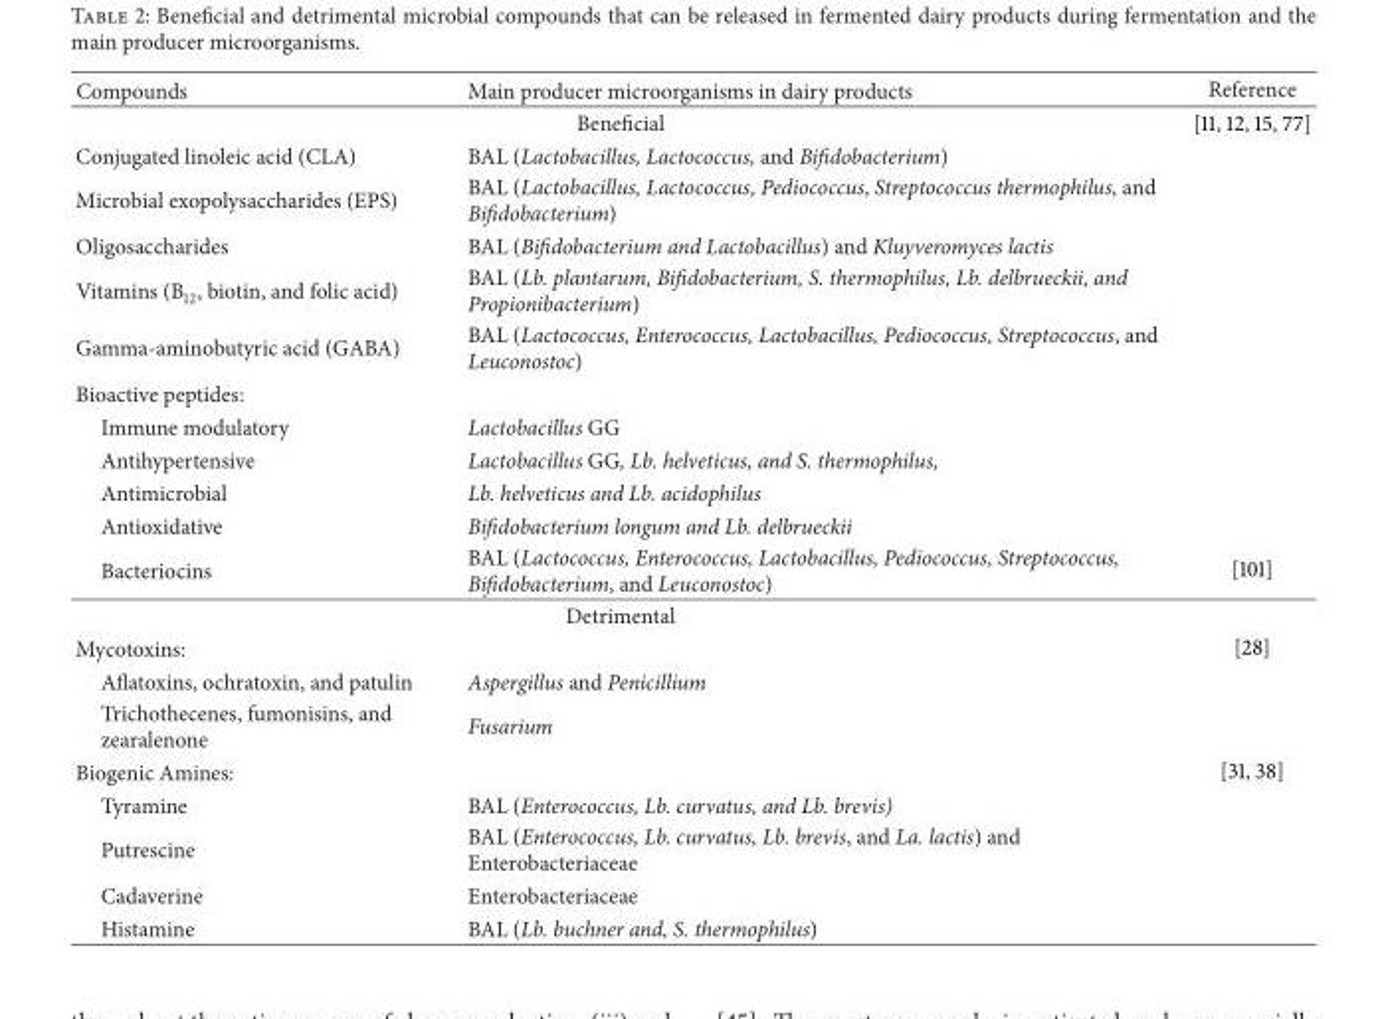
<table><thead><tr><td>Compounds</td><td>Main producer microorganisms in dairy products</td><td>Reference</td></tr></thead><tbody><tr><td colspan="2">Beneficial</td><td>[11, 12, 15, 77]</td></tr><tr><td>Conjugated linoleic acid (CLA)</td><td>BAL (Lactobacillus, Lactococcus, and Bifidobacterium)</td><td></td></tr><tr><td>Microbial exopolysaccharides (EPS)</td><td>BAL (Lactobacillus, Lactococcus, Pediococcus, Streptococcus thermophilus, and Bifidobacterium)</td><td></td></tr><tr><td>Oligosaccharides</td><td>BAL (Bifidobacterium and Lactobacillus) and Kluyveromyces lactis</td><td></td></tr><tr><td>Vitamins (B<sub>12</sub>, biotin, and folic acid)</td><td>BAL (Lb. plantarum, Bifidobacterium, S. thermophilus, Lb. delbrueckii, and Propionibacterium)</td><td></td></tr><tr><td>Gamma-aminobutyric acid (GABA)</td><td>BAL (Lactococcus, Enterococcus, Lactobacillus, Pediococcus, Streptococcus, and Leuconostoc)</td><td></td></tr><tr><td colspan="3">Bioactive peptides:</td></tr><tr><td>Immune modulatory</td><td>Lactobacillus GG</td><td></td></tr><tr><td>Antihypertensive</td><td>Lactobacillus GG, Lb. helveticus, and S. thermophilus,</td><td></td></tr><tr><td>Antimicrobial</td><td>Lb. helveticus and Lb. acidophilus</td><td></td></tr><tr><td>Antioxidative</td><td>Bifidobacterium longum and Lb. delbrueckii</td><td></td></tr><tr><td>Bacteriocins</td><td>BAL (Lactococcus, Enterococcus, Lactobacillus, Pediococcus, Streptococcus, Bifidobacterium, and Leuconostoc)</td><td>[101]</td></tr><tr><td colspan="3">Detrimental</td></tr><tr><td>Mycotoxins:</td><td></td><td>[28]</td></tr><tr><td>Aflatoxins, ochratoxin, and patulin</td><td>Aspergillus and Penicillium</td><td></td></tr><tr><td>Trichothecenes, fumonisins, and zearalenone</td><td>Fusarium</td><td></td></tr><tr><td>Biogenic Amines:</td><td></td><td>[31, 38]</td></tr><tr><td>Tyramine</td><td>BAL (Enterococcus, Lb. curvatus, and Lb. brevis)</td><td></td></tr><tr><td>Putrescine</td><td>BAL (Enterococcus, Lb. curvatus, Lb. brevis, and La. lactis) and Enterobacteriaceae</td><td></td></tr><tr><td>Cadaverine</td><td>Enterobacteriaceae</td><td></td></tr><tr><td>Histamine</td><td>BAL (Lb. buchner and, S. thermophilus)</td><td></td></tr></tbody></table>